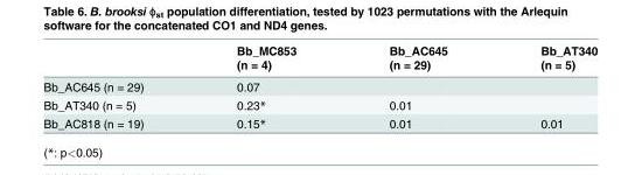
<table><thead><tr><td rowspan="2"></td><td rowspan="2">Bb_MC853 (n = 4)</td><td rowspan="2">Bb_AC645 (n = 29)</td><td rowspan="2">Bb_AT340 (n = 5)</td></tr><tr></tr></thead><tbody><tr><td>Bb_AC645 (n = 29)</td><td>0.07</td><td></td><td></td></tr><tr><td>Bb_AT340 (n = 5)</td><td>0.23*</td><td>0.01</td><td></td></tr><tr><td>Bb_AC818 (n = 19)</td><td>0.15*</td><td>0.01</td><td>0.01</td></tr></tbody></table>